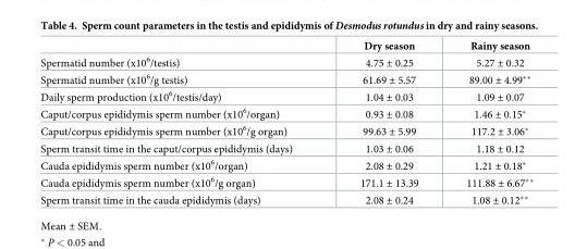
<table><thead><tr><td></td><td>Dry season</td><td>Rainy season</td></tr></thead><tbody><tr><td>Spermatid number (x10<sup>6</sup>/testis)</td><td>4.75 ± 0.25</td><td>5.27 ± 0.32</td></tr><tr><td>Spermatid number (x10<sup>6</sup>/g testis)</td><td>61.69 ± 5.57</td><td>89.00 ± 4.99**</td></tr><tr><td>Daily sperm production (x10<sup>6</sup>/testis/day)</td><td>1.04 ± 0.03</td><td>1.09 ± 0.07</td></tr><tr><td>Caput/corpus epididymis sperm number (x10<sup>6</sup>/organ)</td><td>0.93 ± 0.08</td><td>1.46 ± 0.15*</td></tr><tr><td>Caput/corpus epididymis sperm number (x10<sup>6</sup>/g organ)</td><td>99.63 ± 5.99</td><td>117.2 ± 3.06*</td></tr><tr><td>Sperm transit time in the caput/corpus epididymis (days)</td><td>1.03 ± 0.06</td><td>1.18 ± 0.12</td></tr><tr><td>Cauda epididymis sperm number (x10<sup>6</sup>/organ)</td><td>2.08 ± 0.29</td><td>1.21 ± 0.18*</td></tr><tr><td>Cauda epididymis sperm number (x10<sup>6</sup>/g organ)</td><td>171.1 ± 13.39</td><td>111.88 ± 6.67**</td></tr><tr><td>Sperm transit time in the cauda epididymis (days)</td><td>2.08 ± 0.24</td><td>1.08 ± 0.12**</td></tr></tbody></table>